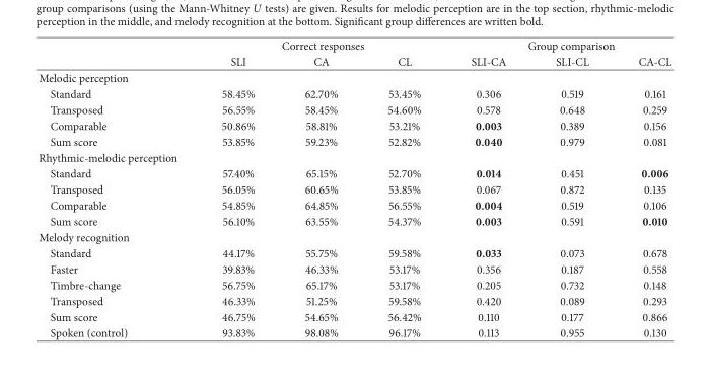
<table><thead><tr><td rowspan="2"></td><td colspan="3">Correct responses</td><td colspan="3">Group comparison</td></tr><tr><td>SLI</td><td>CA</td><td>CL</td><td>SLI-CA</td><td>SLI-CL</td><td>CA-CL</td></tr></thead><tbody><tr><td colspan="7">Melodic perception</td></tr><tr><td>Standard</td><td>58.45%</td><td>62.70%</td><td>53.45%</td><td>0.306</td><td>0.519</td><td>0.161</td></tr><tr><td>Transposed</td><td>56.55%</td><td>58.45%</td><td>54.60%</td><td>0.578</td><td>0.648</td><td>0.259</td></tr><tr><td>Comparable</td><td>50.86%</td><td>58.81%</td><td>53.21%</td><td>0.003</td><td>0.389</td><td>0.156</td></tr><tr><td>Sum score</td><td>53.85%</td><td>59.23%</td><td>52.82%</td><td>0.040</td><td>0.979</td><td>0.081</td></tr><tr><td colspan="7">Rhythmic-melodic perception</td></tr><tr><td>Standard</td><td>57.40%</td><td>65.15%</td><td>52.70%</td><td>0.014</td><td>0.451</td><td>0.006</td></tr><tr><td>Transposed</td><td>56.05%</td><td>60.65%</td><td>53.85%</td><td>0.067</td><td>0.872</td><td>0.135</td></tr><tr><td>Comparable</td><td>54.85%</td><td>64.85%</td><td>56.55%</td><td>0.004</td><td>0.519</td><td>0.106</td></tr><tr><td>Sum score</td><td>56.10%</td><td>63.55%</td><td>54.37%</td><td>0.003</td><td>0.591</td><td>0.010</td></tr><tr><td colspan="7">Melody recognition</td></tr><tr><td>Standard</td><td>44.17%</td><td>55.75%</td><td>59.58%</td><td>0.033</td><td>0.073</td><td>0.678</td></tr><tr><td>Faster</td><td>39.83%</td><td>46.33%</td><td>53.17%</td><td>0.356</td><td>0.187</td><td>0.558</td></tr><tr><td>Timbre-change</td><td>56.75%</td><td>65.17%</td><td>53.17%</td><td>0.205</td><td>0.732</td><td>0.148</td></tr><tr><td>Transposed</td><td>46.33%</td><td>51.25%</td><td>59.58%</td><td>0.420</td><td>0.089</td><td>0.293</td></tr><tr><td>Sum score</td><td>46.75%</td><td>54.65%</td><td>56.42%</td><td>0.110</td><td>0.177</td><td>0.866</td></tr><tr><td>Spoken (control)</td><td>93.83%</td><td>98.08%</td><td>96.17%</td><td>0.113</td><td>0.955</td><td>0.130</td></tr></tbody></table>